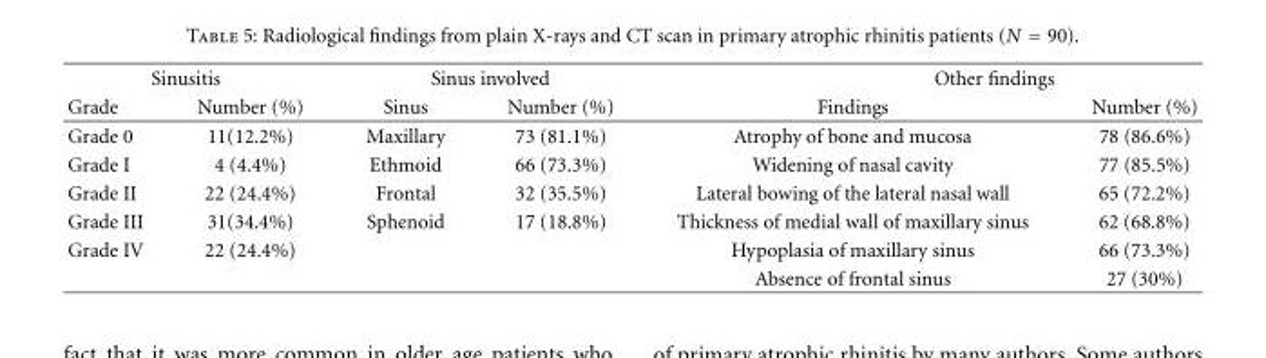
<table><thead><tr><td colspan="2">Sinusitis</td><td colspan="2">Sinus involved</td><td colspan="2">Other findings</td></tr><tr><td>Grade</td><td>Number (%)</td><td>Sinus</td><td>Number (%)</td><td>Findings</td><td>Number (%)</td></tr></thead><tbody><tr><td>Grade 0</td><td>11(12.2%)</td><td>Maxillary</td><td>73 (81.1%)</td><td>Atrophy of bone and mucosa</td><td>78 (86.6%)</td></tr><tr><td>Grade I</td><td>4 (4.4%)</td><td>Ethmoid</td><td>66 (73.3%)</td><td>Widening of nasal cavity</td><td>77 (85.5%)</td></tr><tr><td>Grade II</td><td>22 (24.4%)</td><td>Frontal</td><td>32 (35.5%)</td><td>Lateral bowing of the lateral nasal wall</td><td>65 (72.2%)</td></tr><tr><td>Grade III</td><td>31(34.4%)</td><td>Sphenoid</td><td>17 (18.8%)</td><td>Thickness of medial wall of maxillary sinus</td><td>62 (68.8%)</td></tr><tr><td rowspan="2">Grade IV</td><td>22 (24.4%)</td><td></td><td></td><td>Hypoplasia of maxillary sinus</td><td>66 (73.3%)</td></tr><tr><td></td><td></td><td></td><td>Absence of frontal sinus</td><td>27 (30%)</td></tr></tbody></table>